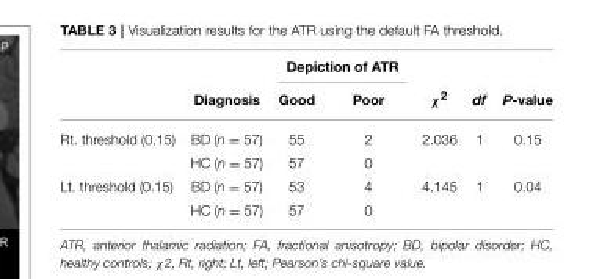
<table><thead><tr><td rowspan="2"></td><td rowspan="2">Diagnosis</td><td colspan="2">Depiction of ATR</td><td rowspan="2">χ<sup>2</sup></td><td rowspan="2">df</td><td rowspan="2">P-value</td></tr><tr><td>Good</td><td>Poor</td></tr></thead><tbody><tr><td rowspan="2">Rt. threshold (0.15)</td><td>BD (n = 57)</td><td>55</td><td>2</td><td>2.036</td><td>1</td><td>0.15</td></tr><tr><td>HC (n = 57)</td><td>57</td><td>0</td><td></td><td></td><td></td></tr><tr><td rowspan="2">Lt. threshold (0.15)</td><td>BD (n = 57)</td><td>53</td><td>4</td><td>4.145</td><td>1</td><td>0.04</td></tr><tr><td>HC (n = 57)</td><td>57</td><td>0</td><td></td><td></td><td></td></tr></tbody></table>